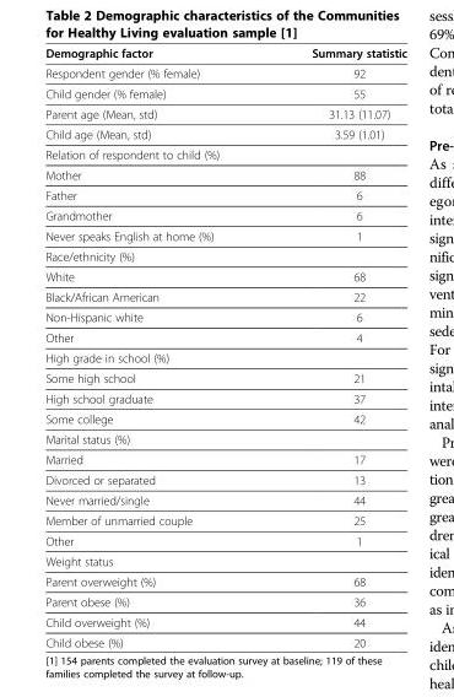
<table><thead><tr><td>Demographic factor</td><td>Summary statistic</td></tr></thead><tbody><tr><td>Respondent gender (% female)</td><td>92</td></tr><tr><td>Child gender (% female)</td><td>55</td></tr><tr><td>Parent age (Mean, std)</td><td>31.13 (11.07)</td></tr><tr><td>Child age (Mean, std)</td><td>3.59 (1.01)</td></tr><tr><td colspan="2">Relation of respondent to child (%)</td></tr><tr><td>Mother</td><td>88</td></tr><tr><td>Father</td><td>6</td></tr><tr><td>Grandmother</td><td>6</td></tr><tr><td>Never speaks English at home (%)</td><td>1</td></tr><tr><td colspan="2">Race/ethnicity (%)</td></tr><tr><td>White</td><td>68</td></tr><tr><td>Black/African American</td><td>22</td></tr><tr><td>Non-Hispanic white</td><td>6</td></tr><tr><td>Other</td><td>4</td></tr><tr><td colspan="2">High grade in school (%)</td></tr><tr><td>Some high school</td><td>21</td></tr><tr><td>High school graduate</td><td>37</td></tr><tr><td>Some college</td><td>42</td></tr><tr><td colspan="2">Marital status (%)</td></tr><tr><td>Married</td><td>17</td></tr><tr><td>Divorced or separated</td><td>13</td></tr><tr><td>Never married/single</td><td>44</td></tr><tr><td>Member of unmarried couple</td><td>25</td></tr><tr><td>Other</td><td>1</td></tr><tr><td colspan="2">Weight status</td></tr><tr><td>Parent overweight (%)</td><td>68</td></tr><tr><td>Parent obese (%)</td><td>36</td></tr><tr><td>Child overweight (%)</td><td>44</td></tr><tr><td>Child obese (%)</td><td>20</td></tr></tbody></table>